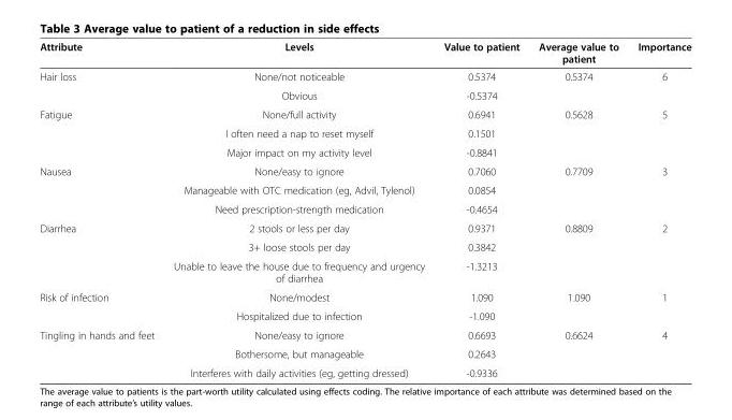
<table><thead><tr><td>Attribute</td><td>Levels</td><td>Value to patient</td><td>Average value to patient</td><td>Importance</td></tr></thead><tbody><tr><td rowspan="2">Hair loss</td><td>None/not noticeable</td><td>0.5374</td><td rowspan="2">0.5374</td><td rowspan="2">6</td></tr><tr><td>Obvious</td><td>-0.5374</td></tr><tr><td rowspan="3">Fatigue</td><td>None/full activity</td><td>0.6941</td><td rowspan="3">0.5628</td><td rowspan="3">5</td></tr><tr><td>I often need a nap to reset myself</td><td>0.1501</td></tr><tr><td>Major impact on my activity level</td><td>-0.8841</td></tr><tr><td rowspan="3">Nausea</td><td>None/easy to ignore</td><td>0.7060</td><td rowspan="3">0.7709</td><td rowspan="3">3</td></tr><tr><td>Manageable with OTC medication (eg, Advil, Tylenol)</td><td>0.0854</td></tr><tr><td>Need prescription-strength medication</td><td>-0.4654</td></tr><tr><td rowspan="3">Diarrhea</td><td>2 stools or less per day</td><td>0.9371</td><td rowspan="3">0.8809</td><td rowspan="3">2</td></tr><tr><td>3+ loose stools per day</td><td>0.3842</td></tr><tr><td>Unable to leave the house due to frequency and urgency of diarrhea</td><td>-1.3213</td></tr><tr><td rowspan="2">Risk of infection</td><td>None/modest</td><td>1.090</td><td rowspan="2">1.090</td><td rowspan="2">1</td></tr><tr><td>Hospitalized due to infection</td><td>-1.090</td></tr><tr><td rowspan="3">Tingling in hands and feet</td><td>None/easy to ignore</td><td>0.6693</td><td rowspan="3">0.6624</td><td rowspan="3">4</td></tr><tr><td>Bothersome, but manageable</td><td>0.2643</td></tr><tr><td>Interferes with daily activities (eg, getting dressed)</td><td>-0.9336</td></tr></tbody></table>